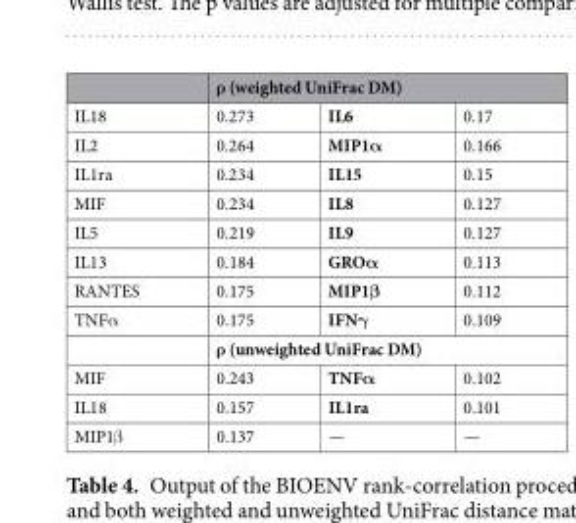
<table><thead><tr><td rowspan="2">IL18</td><td colspan="3">ρ (weighted UniFrac DM)</td></tr><tr><td>0.273</td><td>IL6</td><td>0.17</td></tr></thead><tbody><tr><td>IL2</td><td>0.264</td><td>MIP1α</td><td>0.166</td></tr><tr><td>IL1ra</td><td>0.234</td><td>IL15</td><td>0.15</td></tr><tr><td>MIF</td><td>0.234</td><td>IL8</td><td>0.127</td></tr><tr><td>IL5</td><td>0.219</td><td>IL9</td><td>0.127</td></tr><tr><td>IL13</td><td>0.184</td><td>GROα</td><td>0.113</td></tr><tr><td>RANTES</td><td>0.175</td><td>MIP1β</td><td>0.112</td></tr><tr><td rowspan="2">TNFα</td><td>0.175</td><td>IFNγ</td><td>0.109</td></tr><tr><td colspan="3">ρ (unweighted UniFrac DM)</td></tr><tr><td>MIF</td><td>0.243</td><td>TNFα</td><td>0.102</td></tr><tr><td>IL18</td><td>0.157</td><td>IL1ra</td><td>0.101</td></tr><tr><td>MIP1β</td><td>0.137</td><td>—</td><td>—</td></tr></tbody></table>